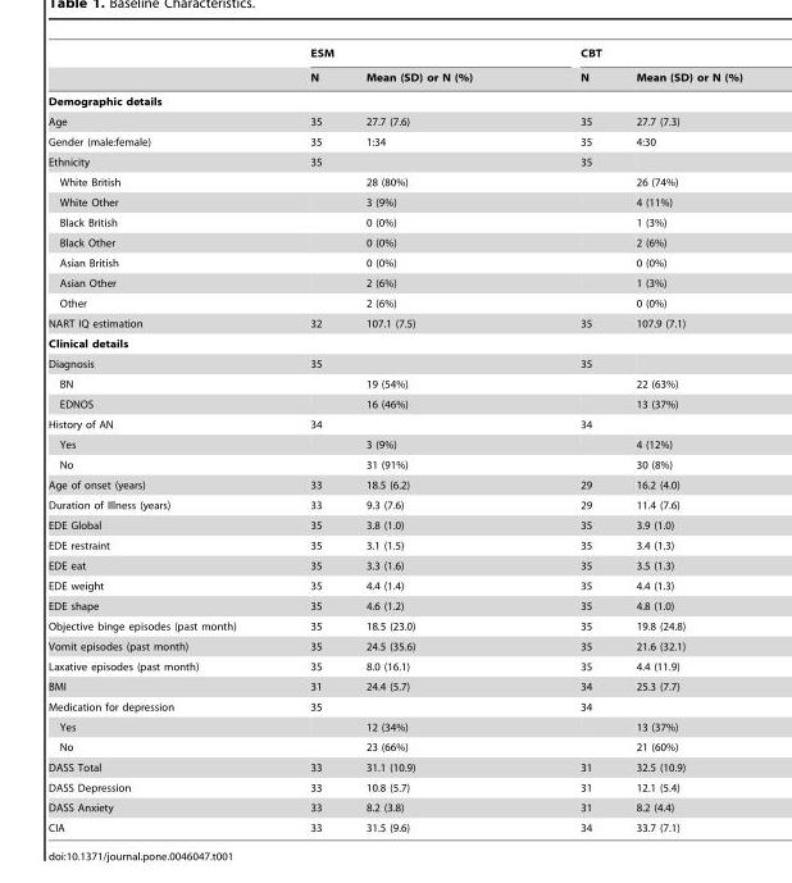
<table><thead><tr><td rowspan="2"></td><td colspan="2">ESM</td><td colspan="2">CBT</td></tr><tr><td>N</td><td>Mean (SD) or N (%)</td><td>N</td><td>Mean (SD) or N (%)</td></tr></thead><tbody><tr><td colspan="5">Demographic details</td></tr><tr><td>Age</td><td>35</td><td>27.7 (7.6)</td><td>35</td><td>27.7 (7.3)</td></tr><tr><td>Gender (male:female)</td><td>35</td><td>1:34</td><td>35</td><td>4:30</td></tr><tr><td>Ethnicity</td><td>35</td><td></td><td>35</td><td></td></tr><tr><td>White British</td><td></td><td>28 (80%)</td><td></td><td>26 (74%)</td></tr><tr><td>White Other</td><td></td><td>3 (9%)</td><td></td><td>4 (11%)</td></tr><tr><td>Black British</td><td></td><td>0 (0%)</td><td></td><td>1 (3%)</td></tr><tr><td>Black Other</td><td></td><td>0 (0%)</td><td></td><td>2 (6%)</td></tr><tr><td>Asian British</td><td></td><td>0 (0%)</td><td></td><td>0 (0%)</td></tr><tr><td>Asian Other</td><td></td><td>2 (6%)</td><td></td><td>1 (3%)</td></tr><tr><td>Other</td><td></td><td>2 (6%)</td><td></td><td>0 (0%)</td></tr><tr><td>NART IQ estimation</td><td>32</td><td>107.1 (7.5)</td><td>35</td><td>107.9 (7.1)</td></tr><tr><td colspan="5">Clinical details</td></tr><tr><td>Diagnosis</td><td>35</td><td></td><td>35</td><td></td></tr><tr><td>BN</td><td></td><td>19 (54%)</td><td></td><td>22 (63%)</td></tr><tr><td>EDNOS</td><td></td><td>16 (46%)</td><td></td><td>13 (37%)</td></tr><tr><td>History of AN</td><td>34</td><td></td><td>34</td><td></td></tr><tr><td>Yes</td><td></td><td>3 (9%)</td><td></td><td>4 (12%)</td></tr><tr><td>No</td><td></td><td>31 (91%)</td><td></td><td>30 (8%)</td></tr><tr><td>Age of onset (years)</td><td>33</td><td>18.5 (6.2)</td><td>29</td><td>16.2 (4.0)</td></tr><tr><td>Duration of Illness (years)</td><td>33</td><td>9.3 (7.6)</td><td>29</td><td>11.4 (7.6)</td></tr><tr><td>EDE Global</td><td>35</td><td>3.8 (1.0)</td><td>35</td><td>3.9 (1.0)</td></tr><tr><td>EDE restraint</td><td>35</td><td>3.1 (1.5)</td><td>35</td><td>3.4 (1.3)</td></tr><tr><td>EDE eat</td><td>35</td><td>3.3 (1.6)</td><td>35</td><td>3.5 (1.3)</td></tr><tr><td>EDE weight</td><td>35</td><td>4.4 (1.4)</td><td>35</td><td>4.4 (1.3)</td></tr><tr><td>EDE shape</td><td>35</td><td>4.6 (1.2)</td><td>35</td><td>4.8 (1.0)</td></tr><tr><td>Objective binge episodes (past month)</td><td>35</td><td>18.5 (23.0)</td><td>35</td><td>19.8 (24.8)</td></tr><tr><td>Vomit episodes (past month)</td><td>35</td><td>24.5 (35.6)</td><td>35</td><td>21.6 (32.1)</td></tr><tr><td>Laxative episodes (past month)</td><td>35</td><td>8.0 (16.1)</td><td>35</td><td>4.4 (11.9)</td></tr><tr><td>BMI</td><td>31</td><td>24.4 (5.7)</td><td>34</td><td>25.3 (7.7)</td></tr><tr><td>Medication for depression</td><td>35</td><td></td><td>34</td><td></td></tr><tr><td>Yes</td><td></td><td>12 (34%)</td><td></td><td>13 (37%)</td></tr><tr><td>No</td><td></td><td>23 (66%)</td><td></td><td>21 (60%)</td></tr><tr><td>DASS Total</td><td>33</td><td>31.1 (10.9)</td><td>31</td><td>32.5 (10.9)</td></tr><tr><td>DASS Depression</td><td>33</td><td>10.8 (5.7)</td><td>31</td><td>12.1 (5.4)</td></tr><tr><td>DASS Anxiety</td><td>33</td><td>8.2 (3.8)</td><td>31</td><td>8.2 (4.4)</td></tr><tr><td>CIA</td><td>33</td><td>31.5 (9.6)</td><td>34</td><td>33.7 (7.1)</td></tr></tbody></table>